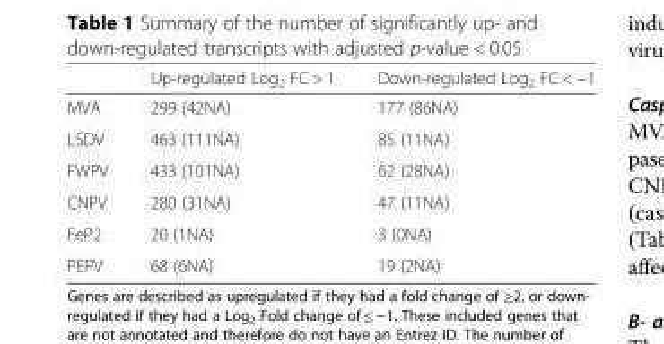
<table><thead><tr><td></td><td>Up-regulated Log<sub>2</sub> FC &gt; 1</td><td>Down-regulated Log<sub>2</sub> FC &lt; −1</td></tr></thead><tbody><tr><td>MVA</td><td>299 (42NA)</td><td>177 (86NA)</td></tr><tr><td>LSDV</td><td>463 (111NA)</td><td>85 (11NA)</td></tr><tr><td>FWPV</td><td>433 (101NA)</td><td>62 (28NA)</td></tr><tr><td>CNPV</td><td>280 (31NA)</td><td>47 (11NA)</td></tr><tr><td>FeP2</td><td>20 (1NA)</td><td>3 (0NA)</td></tr><tr><td>PEPV</td><td>68 (6NA)</td><td>19 (2NA)</td></tr></tbody></table>